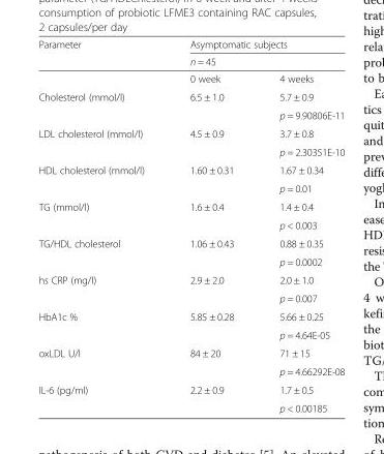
<table><thead><tr><td rowspan="2">Parameter</td><td colspan="2">Asymptomatic subjects</td></tr><tr><td>n = 45</td><td></td></tr></thead><tbody><tr><td></td><td>0 week</td><td>4 weeks</td></tr><tr><td rowspan="2">Cholesterol (mmol/l)</td><td>6.5 ± 1.0</td><td>5.7 ± 0.9</td></tr><tr><td></td><td>p = 9.90806E-11</td></tr><tr><td rowspan="2">LDL cholesterol (mmol/l)</td><td>4.5 ± 0.9</td><td>3.7 ± 0.8</td></tr><tr><td></td><td>p = 2.30351E-10</td></tr><tr><td rowspan="2">HDL cholesterol (mmol/l)</td><td>1.60 ± 0.31</td><td>1.67 ± 0.34</td></tr><tr><td></td><td>p = 0.01</td></tr><tr><td rowspan="2">TG (mmol/l)</td><td>1.6 ± 0.4</td><td>1.4 ± 0.4</td></tr><tr><td></td><td>p &lt; 0.003</td></tr><tr><td rowspan="2">TG/HDL cholesterol</td><td>1.06 ± 0.43</td><td>0.88 ± 0.35</td></tr><tr><td></td><td>p = 0.0002</td></tr><tr><td rowspan="2">hs CRP (mg/l)</td><td>2.9 ± 2.0</td><td>2.0 ± 1.0</td></tr><tr><td></td><td>p = 0.007</td></tr><tr><td rowspan="2">HbA1c %</td><td>5.85 ± 0.28</td><td>5.66 ± 0.25</td></tr><tr><td></td><td>p = 4.64E-05</td></tr><tr><td rowspan="2">oxLDL U/l</td><td>84 ± 20</td><td>71 ± 15</td></tr><tr><td></td><td>p = 4.66292E-08</td></tr><tr><td rowspan="2">IL-6 (pg/ml)</td><td>2.2 ± 0.9</td><td>1.7 ± 0.5</td></tr><tr><td></td><td>p &lt; 0.00185</td></tr></tbody></table>